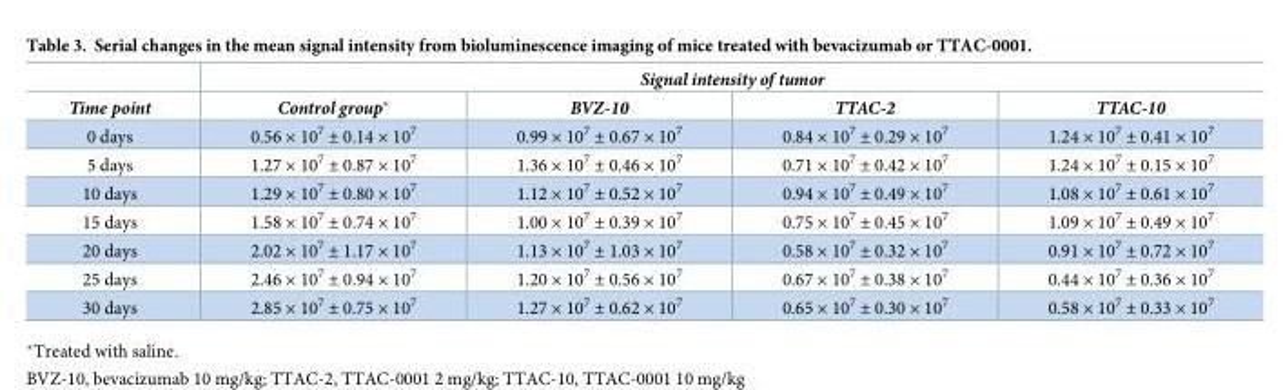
<table><thead><tr><td rowspan="2">Time point</td><td colspan="4">Signal intensity of tumor</td></tr><tr><td>Control group*</td><td>BVZ-10</td><td>TTAC-2</td><td>TTAC-10</td></tr></thead><tbody><tr><td>0 days</td><td>0.56 × 10<sup>7</sup> ± 0.14 × 10<sup>7</sup></td><td>0.99 × 10<sup>7</sup> ± 0.67 × 10<sup>7</sup></td><td>0.84 × 10<sup>7</sup> ± 0.29 × 10<sup>7</sup></td><td>1.24 × 10<sup>7</sup> ± 0.41 × 10<sup>7</sup></td></tr><tr><td>5 days</td><td>1.27 × 10<sup>7</sup> ± 0.87 × 10<sup>7</sup></td><td>1.36 × 10<sup>7</sup> ± 0.46 × 10<sup>7</sup></td><td>0.71 × 10<sup>7</sup> ± 0.42 × 10<sup>7</sup></td><td>1.24 × 10<sup>7</sup> ± 0.15 × 10<sup>7</sup></td></tr><tr><td>10 days</td><td>1.29 × 10<sup>7</sup> ± 0.80 × 10<sup>7</sup></td><td>1.12 × 10<sup>7</sup> ± 0.52 × 10<sup>7</sup></td><td>0.94 × 10<sup>7</sup> ± 0.49 × 10<sup>7</sup></td><td>1.08 × 10<sup>7</sup> ± 0.61 × 10<sup>7</sup></td></tr><tr><td>15 days</td><td>1.58 × 10<sup>7</sup> ± 0.74 × 10<sup>7</sup></td><td>1.00 × 10<sup>7</sup> ± 0.39 × 10<sup>7</sup></td><td>0.75 × 10<sup>7</sup> ± 0.45 × 10<sup>7</sup></td><td>1.09 × 10<sup>7</sup> ± 0.49 × 10<sup>7</sup></td></tr><tr><td>20 days</td><td>2.02 × 10<sup>7</sup> ± 1.17 × 10<sup>7</sup></td><td>1.13 × 10<sup>7</sup> ± 1.03 × 10<sup>7</sup></td><td>0.58 × 10<sup>7</sup> ± 0.32 × 10<sup>7</sup></td><td>0.91 × 10<sup>7</sup> ± 0.72 × 10<sup>7</sup></td></tr><tr><td>25 days</td><td>2.46 × 10<sup>7</sup> ± 0.94 × 10<sup>7</sup></td><td>1.20 × 10<sup>7</sup> ± 0.56 × 10<sup>7</sup></td><td>0.67 × 10<sup>7</sup> ± 0.38 × 10<sup>7</sup></td><td>0.44 × 10<sup>7</sup> ± 0.36 × 10<sup>7</sup></td></tr><tr><td>30 days</td><td>2.85 × 10<sup>7</sup> ± 0.75 × 10<sup>7</sup></td><td>1.27 × 10<sup>7</sup> ± 0.62 × 10<sup>7</sup></td><td>0.65 × 10<sup>7</sup> ± 0.30 × 10<sup>7</sup></td><td>0.58 × 10<sup>7</sup> ± 0.33 × 10<sup>7</sup></td></tr></tbody></table>